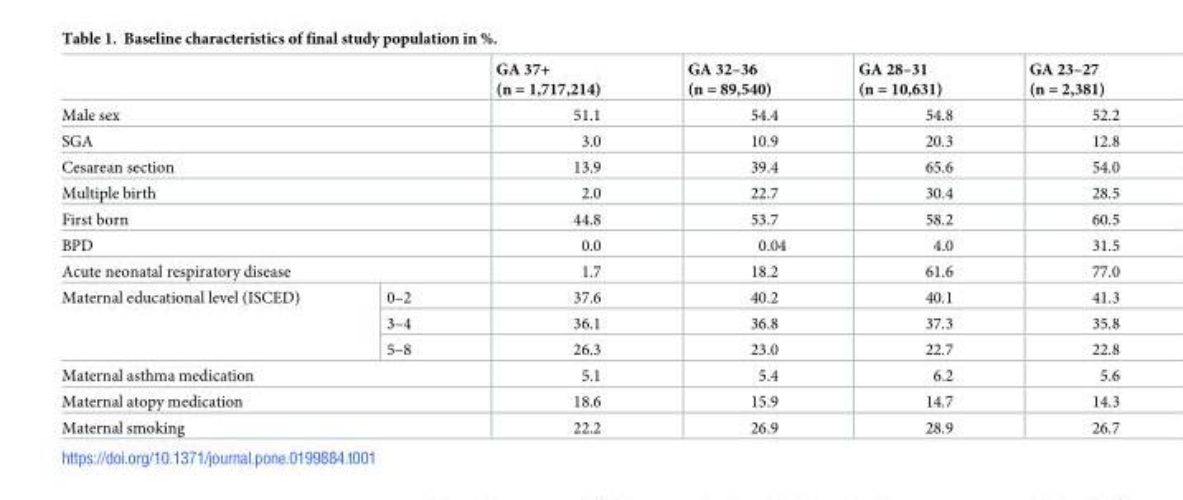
<table><thead><tr><td></td><td></td><td>GA 37+ (n = 1,717,214)</td><td>GA 32–36 (n = 89,540)</td><td>GA 28–31 (n = 10,631)</td><td>GA 23–27 (n = 2,381)</td></tr></thead><tbody><tr><td colspan="2">Male sex</td><td>51.1</td><td>54.4</td><td>54.8</td><td>52.2</td></tr><tr><td colspan="2">SGA</td><td>3.0</td><td>10.9</td><td>20.3</td><td>12.8</td></tr><tr><td colspan="2">Cesarean section</td><td>13.9</td><td>39.4</td><td>65.6</td><td>54.0</td></tr><tr><td colspan="2">Multiple birth</td><td>2.0</td><td>22.7</td><td>30.4</td><td>28.5</td></tr><tr><td colspan="2">First born</td><td>44.8</td><td>53.7</td><td>58.2</td><td>60.5</td></tr><tr><td colspan="2">BPD</td><td>0.0</td><td>0.04</td><td>4.0</td><td>31.5</td></tr><tr><td colspan="2">Acute neonatal respiratory disease</td><td>1.7</td><td>18.2</td><td>61.6</td><td>77.0</td></tr><tr><td rowspan="3">Maternal educational level (ISCED)</td><td>0–2</td><td>37.6</td><td>40.2</td><td>40.1</td><td>41.3</td></tr><tr><td>3–4</td><td>36.1</td><td>36.8</td><td>37.3</td><td>35.8</td></tr><tr><td>5–8</td><td>26.3</td><td>23.0</td><td>22.7</td><td>22.8</td></tr><tr><td colspan="2">Maternal asthma medication</td><td>5.1</td><td>5.4</td><td>6.2</td><td>5.6</td></tr><tr><td colspan="2">Maternal atopy medication</td><td>18.6</td><td>15.9</td><td>14.7</td><td>14.3</td></tr><tr><td colspan="2">Maternal smoking</td><td>22.2</td><td>26.9</td><td>28.9</td><td>26.7</td></tr></tbody></table>